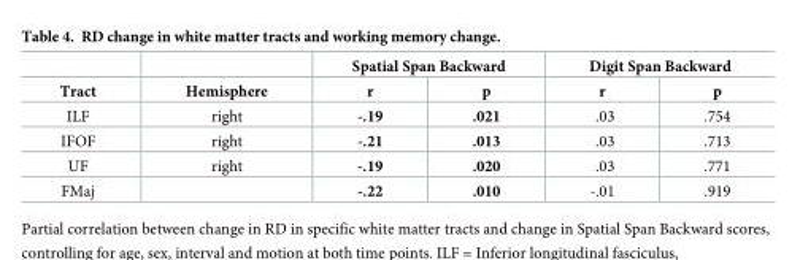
<table><thead><tr><td rowspan="2">Tract</td><td rowspan="2">Hemisphere</td><td colspan="2">Spatial Span Backward</td><td colspan="2">Digit Span Backward</td></tr><tr><td>r</td><td>p</td><td>r</td><td>p</td></tr></thead><tbody><tr><td>ILF</td><td>right</td><td>-.19</td><td>.021</td><td>.03</td><td>.754</td></tr><tr><td>IFOF</td><td>right</td><td>-.21</td><td>.013</td><td>.03</td><td>.713</td></tr><tr><td>UF</td><td>right</td><td>-.19</td><td>.020</td><td>.03</td><td>.771</td></tr><tr><td>FMaj</td><td></td><td>-.22</td><td>.010</td><td>-.01</td><td>.919</td></tr></tbody></table>